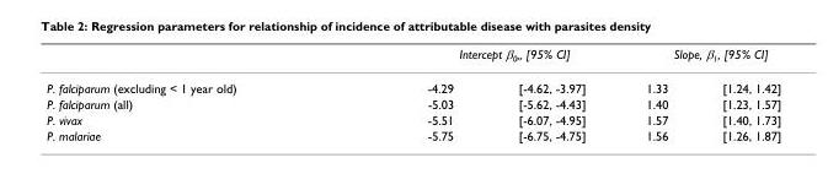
<table><thead><tr><td rowspan="2">P. falciparum (excluding &lt; 1 year old)</td><td colspan="2">Intercept β<sub>0</sub>,, [95% CI]</td><td colspan="2">Slope, β<sub>1</sub>, [95% CI]</td></tr><tr><td>-4.29</td><td>[-4.62, -3.97]</td><td>1.33</td><td>[1.24, 1.42]</td></tr></thead><tbody><tr><td>P. falciparum (all)</td><td>-5.03</td><td>[-5.62, -4.43]</td><td>1.40</td><td>[1.23, 1.57]</td></tr><tr><td>P. vivax</td><td>-5.51</td><td>[-6.07, -4.95]</td><td>1.57</td><td>[1.40, 1.73]</td></tr><tr><td>P. malariae</td><td>-5.75</td><td>[-6.75, -4.75]</td><td>1.56</td><td>[1.26, 1.87]</td></tr></tbody></table>